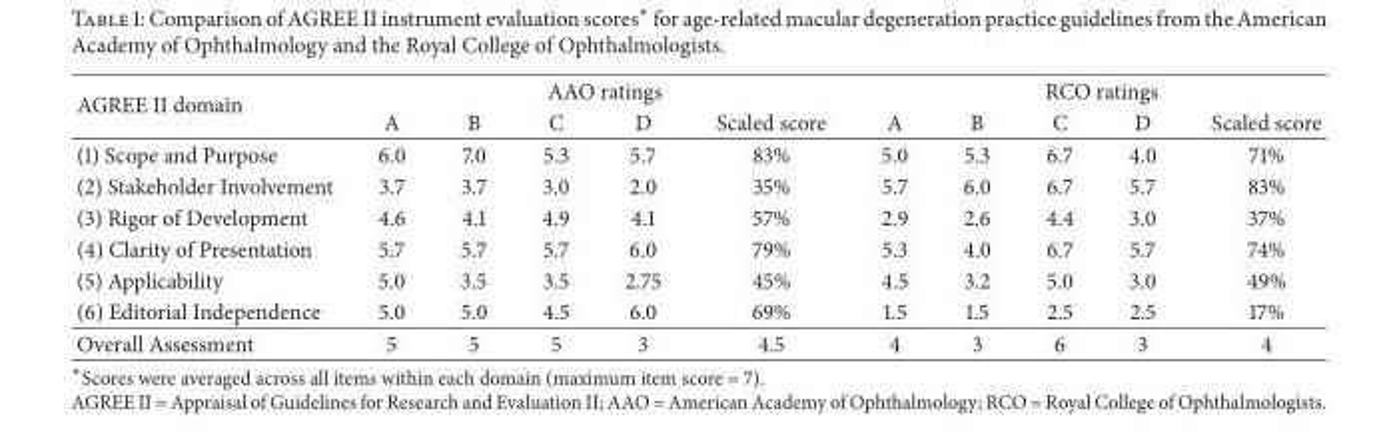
<table><thead><tr><td rowspan="2">AGREE II domain</td><td colspan="5">AAO ratings</td><td colspan="5">RCO ratings</td></tr><tr><td>A</td><td>B</td><td>C</td><td>D</td><td>Scaled score</td><td>A</td><td>B</td><td>C</td><td>D</td><td>Scaled score</td></tr></thead><tbody><tr><td>(1) Scope and Purpose</td><td>6.0</td><td>7.0</td><td>5.3</td><td>5.7</td><td>83%</td><td>5.0</td><td>5.3</td><td>6.7</td><td>4.0</td><td>71%</td></tr><tr><td>(2) Stakeholder Involvement</td><td>3.7</td><td>3.7</td><td>3.0</td><td>2.0</td><td>35%</td><td>5.7</td><td>6.0</td><td>6.7</td><td>5.7</td><td>83%</td></tr><tr><td>(3) Rigor of Development</td><td>4.6</td><td>4.1</td><td>4.9</td><td>4.1</td><td>57%</td><td>2.9</td><td>2.6</td><td>4.4</td><td>3.0</td><td>37%</td></tr><tr><td>(4) Clarity of Presentation</td><td>5.7</td><td>5.7</td><td>5.7</td><td>6.0</td><td>79%</td><td>5.3</td><td>4.0</td><td>6.7</td><td>5.7</td><td>74%</td></tr><tr><td>(5) Applicability</td><td>5.0</td><td>3.5</td><td>3.5</td><td>2.75</td><td>45%</td><td>4.5</td><td>3.2</td><td>5.0</td><td>3.0</td><td>49%</td></tr><tr><td>(6) Editorial Independence</td><td>5.0</td><td>5.0</td><td>4.5</td><td>6.0</td><td>69%</td><td>1.5</td><td>1.5</td><td>2.5</td><td>2.5</td><td>17%</td></tr><tr><td>Overall Assessment</td><td>5</td><td>5</td><td>5</td><td>3</td><td>4.5</td><td>4</td><td>3</td><td>6</td><td>3</td><td>4</td></tr></tbody></table>